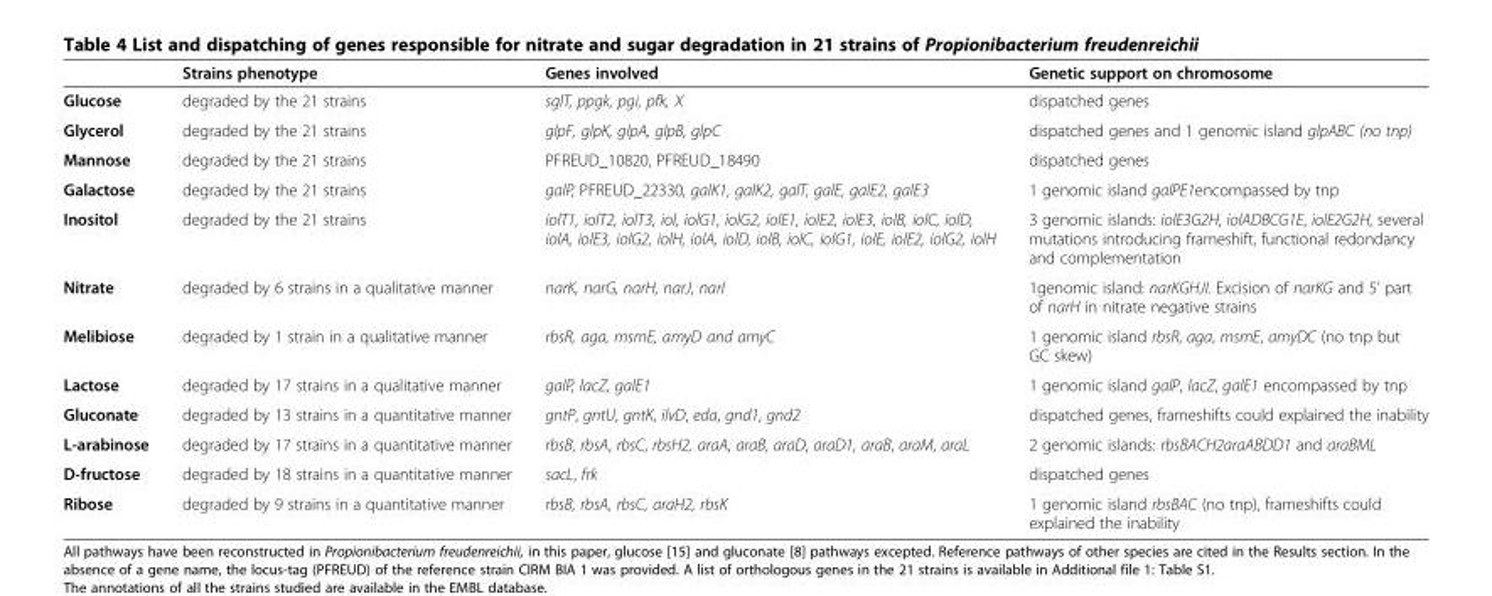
<table><thead><tr><td></td><td>Strains phenotype</td><td>Genes involved</td><td>Genetic support on chromosome</td></tr></thead><tbody><tr><td>Glucose</td><td>degraded by the 21 strains</td><td>sglT, ppgk, pgi, pfk, X</td><td>dispatched genes</td></tr><tr><td>Glycerol</td><td>degraded by the 21 strains</td><td>glpF, glpK, glpA, glpB, glpC</td><td>dispatched genes and 1 genomic island glpABC (no tnp)</td></tr><tr><td>Mannose</td><td>degraded by the 21 strains</td><td>PFREUD_10820, PFREUD_18490</td><td>dispatched genes</td></tr><tr><td>Galactose</td><td>degraded by the 21 strains</td><td>galP, PFREUD_22330, galK1, galK2, galT, galE, galE2, galE3</td><td>1 genomic island galPE1encompassed by tnp</td></tr><tr><td>Inositol</td><td>degraded by the 21 strains</td><td>iolT1, iolT2, iolT3, iol, iolG1, iolG2, iolE1, iolE2, iolE3, iolB, iolC, iolD, iolA, iolE3, iolG2, iolH, iolA, iolD, iolB, iolC, iolG1, iolE, iolE2, iolG2, iolH</td><td>3 genomic islands: iolE3G2H, iolADBCG1E, iolE2G2H, several mutations introducing frameshift, functional redondancy and complementation</td></tr><tr><td>Nitrate</td><td>degraded by 6 strains in a qualitative manner</td><td>narK, narG, narH, narJ, narI</td><td>1genomic island: narKGHJI. Excision of narKG and 5’ part of narH in nitrate negative strains</td></tr><tr><td>Melibiose</td><td>degraded by 1 strain in a qualitative manner</td><td>rbsR, aga, msmE, amyD and amyC</td><td>1 genomic island rbsR, aga, msmE, amyDC (no tnp but GC skew)</td></tr><tr><td>Lactose</td><td>degraded by 17 strains in a qualitative manner</td><td>galP, lacZ, galE1</td><td>1 genomic island galP, lacZ, galE1 encompassed by tnp</td></tr><tr><td>Gluconate</td><td>degraded by 13 strains in a quantitative manner</td><td>gntP, gntU, gntK, ilvD, eda, gnd1, gnd2</td><td>dispatched genes, frameshifts could explained the inability</td></tr><tr><td>L-arabinose</td><td>degraded by 17 strains in a quantitative manner</td><td>rbsB, rbsA, rbsC, rbsH2, araA, araB, araD, araD1, araB, araM, araL</td><td>2 genomic islands: rbsBACH2araABDD1 and araBML</td></tr><tr><td>D-fructose</td><td>degraded by 18 strains in a quantitative manner</td><td>sacL, frk</td><td>dispatched genes</td></tr><tr><td>Ribose</td><td>degraded by 9 strains in a quantitative manner</td><td>rbsB, rbsA, rbsC, araH2, rbsK</td><td>1 genomic island rbsBAC (no tnp), frameshifts could explained the inability</td></tr></tbody></table>